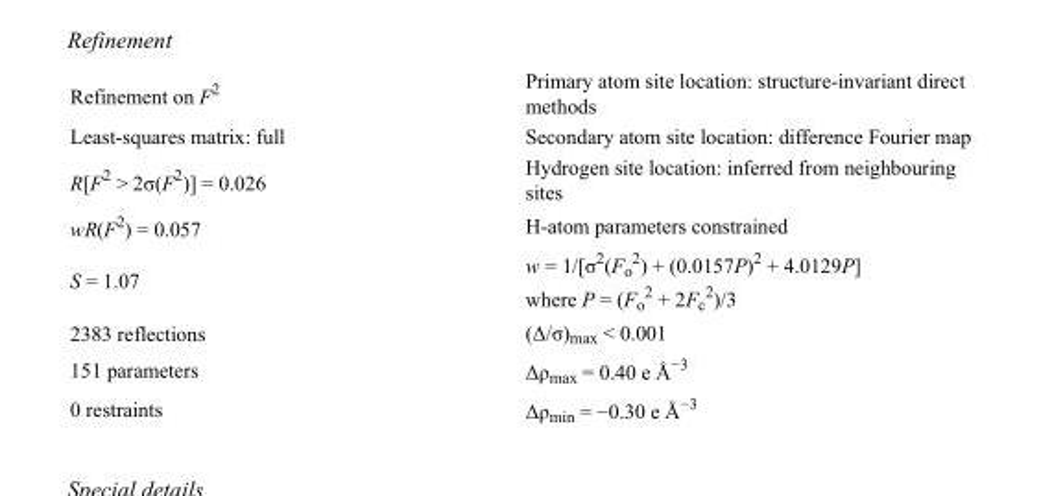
<table><tbody><tr><td>Refinement on F<sup>2</sup></td><td>Primary atom site location: structure-invariant direct methods</td></tr><tr><td>Least-squares matrix: full</td><td>Secondary atom site location: difference Fourier map</td></tr><tr><td>R[F<sup>2</sup> &gt; 2σ(F<sup>2</sup>)] = 0.026</td><td>Hydrogen site location: inferred from neighbouring sites</td></tr><tr><td>wR(F<sup>2</sup>) = 0.057</td><td>H-atom parameters constrained</td></tr><tr><td>S = 1.07</td><td>w = 1/[σ<sup>2</sup>(F<sub>o</sub> <sup>2</sup>) + (0.0157P)<sup>2</sup> + 4.0129P] where P = (F<sub>o</sub> <sup>2</sup> + 2F<sub>c</sub> <sup>2</sup>)/3</td></tr><tr><td>2383 reflections</td><td>(Δ/σ)<sub>max</sub> &lt; 0.001</td></tr><tr><td>151 parameters</td><td>Δρ<sub>max</sub> = 0.40 e Å<sup>−3</sup></td></tr><tr><td>0 restraints</td><td>Δρ<sub>min</sub> = −0.30 e Å<sup>−3</sup></td></tr></tbody></table>